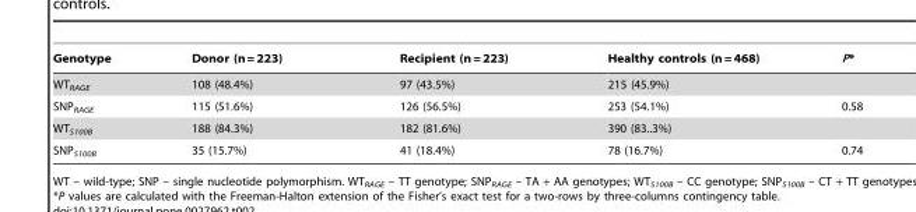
<table><thead><tr><td>Genotype</td><td>Donor (n = 223)</td><td>Recipient (n = 223)</td><td>Healthy controls (n = 468)</td><td>P*</td></tr></thead><tbody><tr><td>WT<sub>RAGE</sub></td><td>108 (48.4%)</td><td>97 (43.5%)</td><td>215 (45.9%)</td><td></td></tr><tr><td>SNP<sub>RAGE</sub></td><td>115 (51.6%)</td><td>126 (56.5%)</td><td>253 (54.1%)</td><td>0.58</td></tr><tr><td>WT<sub>S100B</sub></td><td>188 (84.3%)</td><td>182 (81.6%)</td><td>390 (83..3%)</td><td></td></tr><tr><td>SNP<sub>S100B</sub></td><td>35 (15.7%)</td><td>41 (18.4%)</td><td>78 (16.7%)</td><td>0.74</td></tr></tbody></table>